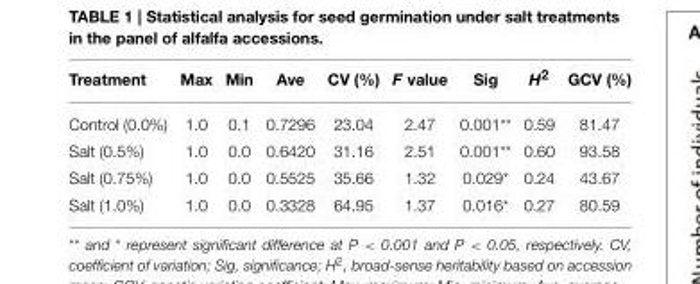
<table><thead><tr><td>Treatment</td><td>Max</td><td>Min</td><td>Ave</td><td>CV (%)</td><td>F value</td><td>Sig</td><td>H<sup>2</sup></td><td>GCV (%)</td></tr></thead><tbody><tr><td>Control (0.0%)</td><td>1.0</td><td>0.1</td><td>0.7296</td><td>23.04</td><td>2.47</td><td>0.001**</td><td>0.59</td><td>81.47</td></tr><tr><td>Salt (0.5%)</td><td>1.0</td><td>0.0</td><td>0.6420</td><td>31.16</td><td>2.51</td><td>0.001**</td><td>0.60</td><td>93.58</td></tr><tr><td>Salt (0.75%)</td><td>1.0</td><td>0.0</td><td>0.5525</td><td>35.66</td><td>1.32</td><td>0.029*</td><td>0.24</td><td>43.67</td></tr><tr><td>Salt (1.0%)</td><td>1.0</td><td>0.0</td><td>0.3328</td><td>64.95</td><td>1.37</td><td>0.016*</td><td>0.27</td><td>80.59</td></tr></tbody></table>